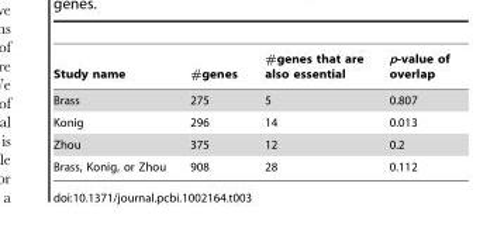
<table><thead><tr><td>Study name</td><td>#genes</td><td>#genes that are also essential</td><td>p-value of overlap</td></tr></thead><tbody><tr><td>Brass</td><td>275</td><td>5</td><td>0.807</td></tr><tr><td>Konig</td><td>296</td><td>14</td><td>0.013</td></tr><tr><td>Zhou</td><td>375</td><td>12</td><td>0.2</td></tr><tr><td>Brass, Konig, or Zhou</td><td>908</td><td>28</td><td>0.112</td></tr></tbody></table>